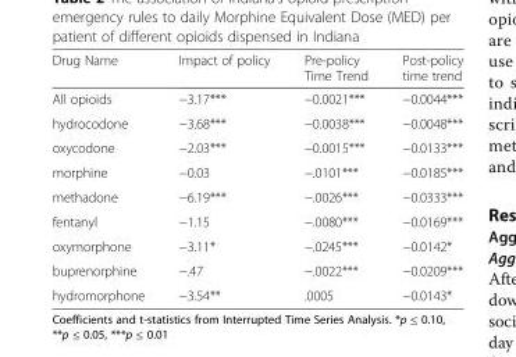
<table><thead><tr><td>Drug Name</td><td>Impact of policy</td><td>Pre-policy Time Trend</td><td>Post-policy time trend</td></tr></thead><tbody><tr><td>All opioids</td><td>−3.17***</td><td>−0.0021***</td><td>−0.0044***</td></tr><tr><td>hydrocodone</td><td>−3.68***</td><td>−0.0038***</td><td>−0.0048***</td></tr><tr><td>oxycodone</td><td>−2.03***</td><td>−0.0015***</td><td>−0.0133***</td></tr><tr><td>morphine</td><td>−0.03</td><td>−.0101***</td><td>−0.0185***</td></tr><tr><td>methadone</td><td>−6.19***</td><td>−.0026***</td><td>−0.0333***</td></tr><tr><td>fentanyl</td><td>−1.15</td><td>−.0080***</td><td>−0.0169***</td></tr><tr><td>oxymorphone</td><td>−3.11*</td><td>−.0245***</td><td>−0.0142*</td></tr><tr><td>buprenorphine</td><td>−.47</td><td>−.0022***</td><td>−0.0209***</td></tr><tr><td>hydromorphone</td><td>−3.54**</td><td>.0005</td><td>−0.0143*</td></tr></tbody></table>